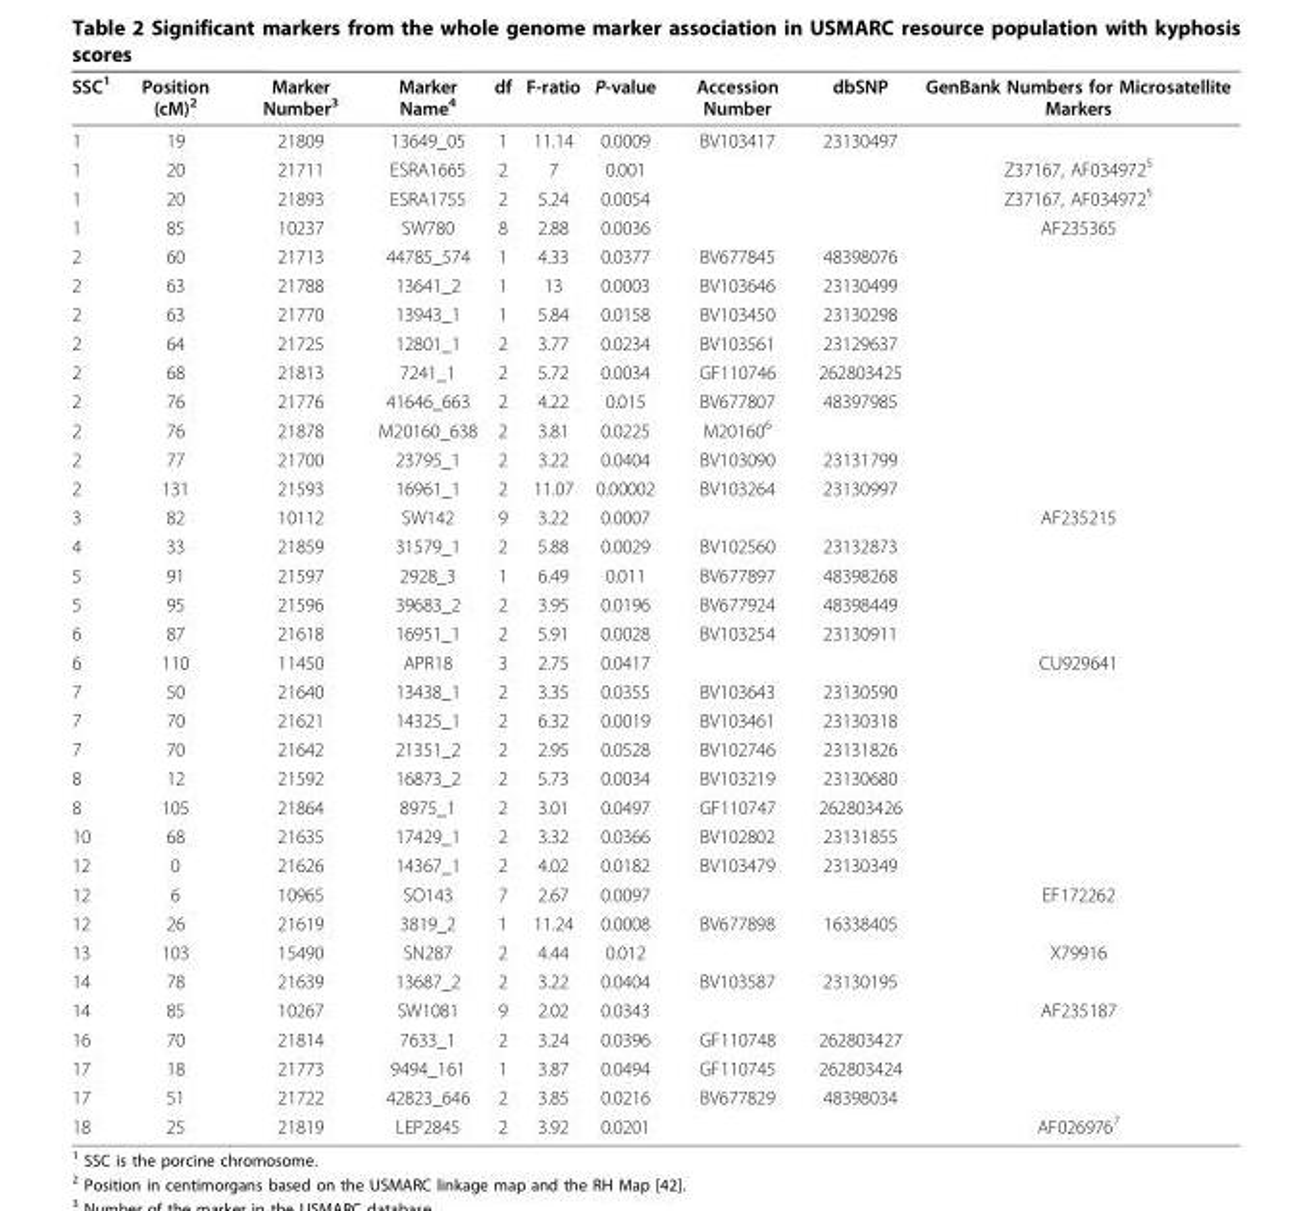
<table><thead><tr><td>SSC<sup>1</sup></td><td>Position (cM)<sup>2</sup></td><td>Marker Number<sup>3</sup></td><td>Marker Name<sup>4</sup></td><td>df</td><td>F-ratio</td><td>P-value</td><td>Accession Number</td><td>dbSNP</td><td>GenBank Numbers for Microsatellite Markers</td></tr></thead><tbody><tr><td>1</td><td>19</td><td>21809</td><td>13649_05</td><td>1</td><td>11.14</td><td>0.0009</td><td>BV103417</td><td>23130497</td><td></td></tr><tr><td>1</td><td>20</td><td>21711</td><td>ESRA1665</td><td>2</td><td>7</td><td>0.001</td><td></td><td></td><td>Z37167, AF034972<sup>5</sup></td></tr><tr><td>1</td><td>20</td><td>21893</td><td>ESRA1755</td><td>2</td><td>5.24</td><td>0.0054</td><td></td><td></td><td>Z37167, AF034972<sup>5</sup></td></tr><tr><td>1</td><td>85</td><td>10237</td><td>SW780</td><td>8</td><td>2.88</td><td>0.0036</td><td></td><td></td><td>AF235365</td></tr><tr><td>2</td><td>60</td><td>21713</td><td>44785_574</td><td>1</td><td>4.33</td><td>0.0377</td><td>BV677845</td><td>48398076</td><td></td></tr><tr><td>2</td><td>63</td><td>21788</td><td>13641_2</td><td>1</td><td>13</td><td>0.0003</td><td>BV103646</td><td>23130499</td><td></td></tr><tr><td>2</td><td>63</td><td>21770</td><td>13943_1</td><td>1</td><td>5.84</td><td>0.0158</td><td>BV103450</td><td>23130298</td><td></td></tr><tr><td>2</td><td>64</td><td>21725</td><td>12801_1</td><td>2</td><td>3.77</td><td>0.0234</td><td>BV103561</td><td>23129637</td><td></td></tr><tr><td>2</td><td>68</td><td>21813</td><td>7241_1</td><td>2</td><td>5.72</td><td>0.0034</td><td>GF110746</td><td>262803425</td><td></td></tr><tr><td>2</td><td>76</td><td>21776</td><td>41646_663</td><td>2</td><td>4.22</td><td>0.015</td><td>BV677807</td><td>48397985</td><td></td></tr><tr><td>2</td><td>76</td><td>21878</td><td>M20160_638</td><td>2</td><td>3.81</td><td>0.0225</td><td>M20160<sup>6</sup></td><td></td><td></td></tr><tr><td>2</td><td>77</td><td>21700</td><td>23795_1</td><td>2</td><td>3.22</td><td>0.0404</td><td>BV103090</td><td>23131799</td><td></td></tr><tr><td>2</td><td>131</td><td>21593</td><td>16961_1</td><td>2</td><td>11.07</td><td>0.00002</td><td>BV103264</td><td>23130997</td><td></td></tr><tr><td>3</td><td>82</td><td>10112</td><td>SW142</td><td>9</td><td>3.22</td><td>0.0007</td><td></td><td></td><td>AF235215</td></tr><tr><td>4</td><td>33</td><td>21859</td><td>31579_1</td><td>2</td><td>5.88</td><td>0.0029</td><td>BV102560</td><td>23132873</td><td></td></tr><tr><td>5</td><td>91</td><td>21597</td><td>2928_3</td><td>1</td><td>6.49</td><td>0.011</td><td>BV677897</td><td>48398268</td><td></td></tr><tr><td>5</td><td>95</td><td>21596</td><td>39683_2</td><td>2</td><td>3.95</td><td>0.0196</td><td>BV677924</td><td>48398449</td><td></td></tr><tr><td>6</td><td>87</td><td>21618</td><td>16951_1</td><td>2</td><td>5.91</td><td>0.0028</td><td>BV103254</td><td>23130911</td><td></td></tr><tr><td>6</td><td>110</td><td>11450</td><td>APR18</td><td>3</td><td>2.75</td><td>0.0417</td><td></td><td></td><td>CU929641</td></tr><tr><td>7</td><td>50</td><td>21640</td><td>13438_1</td><td>2</td><td>3.35</td><td>0.0355</td><td>BV103643</td><td>23130590</td><td></td></tr><tr><td>7</td><td>70</td><td>21621</td><td>14325_1</td><td>2</td><td>6.32</td><td>0.0019</td><td>BV103461</td><td>23130318</td><td></td></tr><tr><td>7</td><td>70</td><td>21642</td><td>21351_2</td><td>2</td><td>2.95</td><td>0.0528</td><td>BV102746</td><td>23131826</td><td></td></tr><tr><td>8</td><td>12</td><td>21592</td><td>16873_2</td><td>2</td><td>5.73</td><td>0.0034</td><td>BV103219</td><td>23130680</td><td></td></tr><tr><td>8</td><td>105</td><td>21864</td><td>8975_1</td><td>2</td><td>3.01</td><td>0.0497</td><td>GF110747</td><td>262803426</td><td></td></tr><tr><td>10</td><td>68</td><td>21635</td><td>17429_1</td><td>2</td><td>3.32</td><td>0.0366</td><td>BV102802</td><td>23131855</td><td></td></tr><tr><td>12</td><td>0</td><td>21626</td><td>14367_1</td><td>2</td><td>4.02</td><td>0.0182</td><td>BV103479</td><td>23130349</td><td></td></tr><tr><td>12</td><td>6</td><td>10965</td><td>SO143</td><td>7</td><td>2.67</td><td>0.0097</td><td></td><td></td><td>EF172262</td></tr><tr><td>12</td><td>26</td><td>21619</td><td>3819_2</td><td>1</td><td>11.24</td><td>0.0008</td><td>BV677898</td><td>16338405</td><td></td></tr><tr><td>13</td><td>103</td><td>15490</td><td>SN287</td><td>2</td><td>4.44</td><td>0.012</td><td></td><td></td><td>X79916</td></tr><tr><td>14</td><td>78</td><td>21639</td><td>13687_2</td><td>2</td><td>3.22</td><td>0.0404</td><td>BV103587</td><td>23130195</td><td></td></tr><tr><td>14</td><td>85</td><td>10267</td><td>SW1081</td><td>9</td><td>2.02</td><td>0.0343</td><td></td><td></td><td>AF235187</td></tr><tr><td>16</td><td>70</td><td>21814</td><td>7633_1</td><td>2</td><td>3.24</td><td>0.0396</td><td>GF110748</td><td>262803427</td><td></td></tr><tr><td>17</td><td>18</td><td>21773</td><td>9494_161</td><td>1</td><td>3.87</td><td>0.0494</td><td>GF110745</td><td>262803424</td><td></td></tr><tr><td>17</td><td>51</td><td>21722</td><td>42823_646</td><td>2</td><td>3.85</td><td>0.0216</td><td>BV677829</td><td>48398034</td><td></td></tr><tr><td>18</td><td>25</td><td>21819</td><td>LEP2845</td><td>2</td><td>3.92</td><td>0.0201</td><td></td><td></td><td>AF026976<sup>7</sup></td></tr></tbody></table>